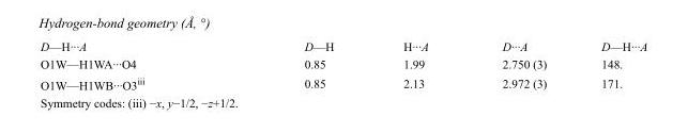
<table><tbody><tr><td>D—H···A</td><td>D—H</td><td>H···A</td><td>D···A</td><td>D—H···A</td></tr><tr><td>O1W—H1WA···O4</td><td>0.85</td><td>1.99</td><td>2.750 (3)</td><td>148.</td></tr><tr><td>O1W—H1WB···O3<sup>iii</sup></td><td>0.85</td><td>2.13</td><td>2.972 (3)</td><td>171.</td></tr></tbody></table>